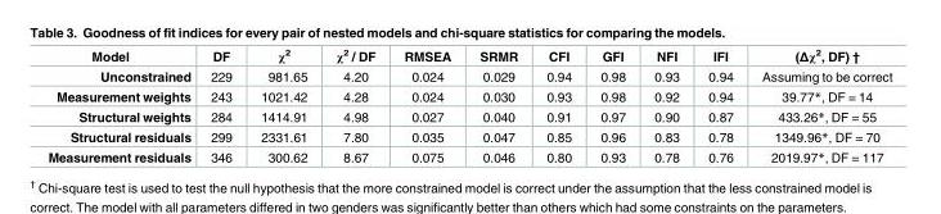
<table><thead><tr><td>Model</td><td>DF</td><td>χ<sup>2</sup></td><td>χ<sup>2</sup> / DF</td><td>RMSEA</td><td>SRMR</td><td>CFI</td><td>GFI</td><td>NFI</td><td>IFI</td><td>(Δχ<sup>2</sup>, DF) †</td></tr></thead><tbody><tr><td>Unconstrained</td><td>229</td><td>981.65</td><td>4.20</td><td>0.024</td><td>0.029</td><td>0.94</td><td>0.98</td><td>0.93</td><td>0.94</td><td>Assuming to be correct</td></tr><tr><td>Measurement weights</td><td>243</td><td>1021.42</td><td>4.28</td><td>0.024</td><td>0.030</td><td>0.93</td><td>0.98</td><td>0.92</td><td>0.94</td><td>39.77*, DF = 14</td></tr><tr><td>Structural weights</td><td>284</td><td>1414.91</td><td>4.98</td><td>0.027</td><td>0.040</td><td>0.91</td><td>0.97</td><td>0.90</td><td>0.87</td><td>433.26*, DF = 55</td></tr><tr><td>Structural residuals</td><td>299</td><td>2331.61</td><td>7.80</td><td>0.035</td><td>0.047</td><td>0.85</td><td>0.96</td><td>0.83</td><td>0.78</td><td>1349.96*, DF = 70</td></tr><tr><td>Measurement residuals</td><td>346</td><td>300.62</td><td>8.67</td><td>0.075</td><td>0.046</td><td>0.80</td><td>0.93</td><td>0.78</td><td>0.76</td><td>2019.97*, DF = 117</td></tr></tbody></table>